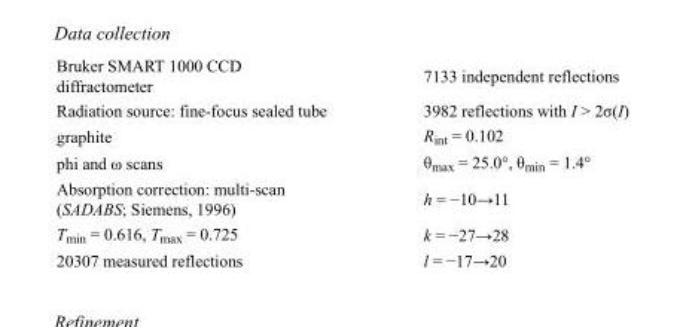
<table><tbody><tr><td>Bruker SMART 1000 CCD diffractometer</td><td>7133 independent reflections</td></tr><tr><td>Radiation source: fine-focus sealed tube</td><td>3982 reflections with I &gt; 2σ(I)</td></tr><tr><td>graphite</td><td>R<sub>int</sub> = 0.102</td></tr><tr><td>phi and ω scans</td><td>θ<sub>max</sub> = 25.0°, θ<sub>min</sub> = 1.4°</td></tr><tr><td>Absorption correction: multi-scan (SADABS; Siemens, 1996)</td><td>h = −10→11</td></tr><tr><td>T<sub>min</sub> = 0.616, T<sub>max</sub> = 0.725</td><td>k = −27→28</td></tr><tr><td>20307 measured reflections</td><td>l = −17→20</td></tr></tbody></table>